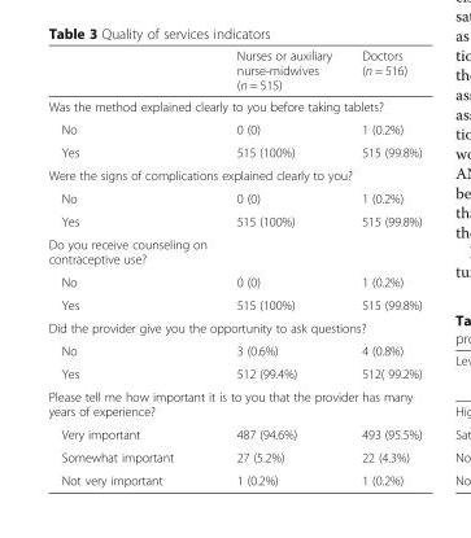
<table><thead><tr><td></td><td>Nurses or auxiliary nurse-midwives (n = 515)</td><td>Doctors (n = 516)</td></tr></thead><tbody><tr><td colspan="3">Was the method explained clearly to you before taking tablets?</td></tr><tr><td>No</td><td>0 (0)</td><td>1 (0.2%)</td></tr><tr><td>Yes</td><td>515 (100%)</td><td>515 (99.8%)</td></tr><tr><td colspan="3">Were the signs of complications explained clearly to you?</td></tr><tr><td>No</td><td>0 (0)</td><td>1 (0.2%)</td></tr><tr><td>Yes</td><td>515 (100%)</td><td>515 (99.8%)</td></tr><tr><td colspan="3">Do you receive counseling on contraceptive use?</td></tr><tr><td>No</td><td>0 (0)</td><td>1 (0.2%)</td></tr><tr><td>Yes</td><td>515 (100%)</td><td>515 (99.8%)</td></tr><tr><td colspan="3">Did the provider give you the opportunity to ask questions?</td></tr><tr><td>No</td><td>3 (0.6%)</td><td>4 (0.8%)</td></tr><tr><td>Yes</td><td>512 (99.4%)</td><td>512( 99.2%)</td></tr><tr><td colspan="3">Please tell me how important it is to you that the provider has many years of experience?</td></tr><tr><td>Very important</td><td>487 (94.6%)</td><td>493 (95.5%)</td></tr><tr><td>Somewhat important</td><td>27 (5.2%)</td><td>22 (4.3%)</td></tr><tr><td>Not very important</td><td>1 (0.2%)</td><td>1 (0.2%)</td></tr></tbody></table>